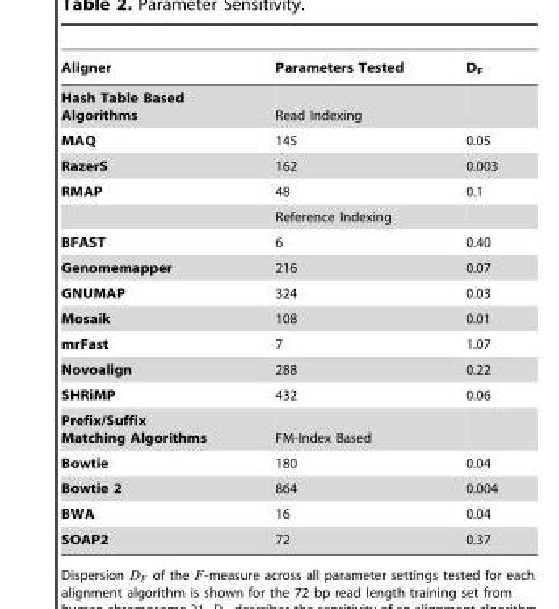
<table><thead><tr><td>Aligner</td><td>Parameters Tested</td><td>D<sub>F</sub></td></tr></thead><tbody><tr><td>Hash Table Based Algorithms</td><td>Read Indexing</td><td></td></tr><tr><td>MAQ</td><td>145</td><td>0.05</td></tr><tr><td>RazerS</td><td>162</td><td>0.003</td></tr><tr><td rowspan="2">RMAP</td><td>48</td><td>0.1</td></tr><tr><td>Reference Indexing</td><td></td></tr><tr><td>BFAST</td><td>6</td><td>0.40</td></tr><tr><td>Genomemapper</td><td>216</td><td>0.07</td></tr><tr><td>GNUMAP</td><td>324</td><td>0.03</td></tr><tr><td>Mosaik</td><td>108</td><td>0.01</td></tr><tr><td>mrFast</td><td>7</td><td>1.07</td></tr><tr><td>Novoalign</td><td>288</td><td>0.22</td></tr><tr><td>SHRiMP</td><td>432</td><td>0.06</td></tr><tr><td>Prefix/Suffix Matching Algorithms</td><td>FM-Index Based</td><td></td></tr><tr><td>Bowtie</td><td>180</td><td>0.04</td></tr><tr><td>Bowtie 2</td><td>864</td><td>0.004</td></tr><tr><td>BWA</td><td>16</td><td>0.04</td></tr><tr><td>SOAP2</td><td>72</td><td>0.37</td></tr></tbody></table>